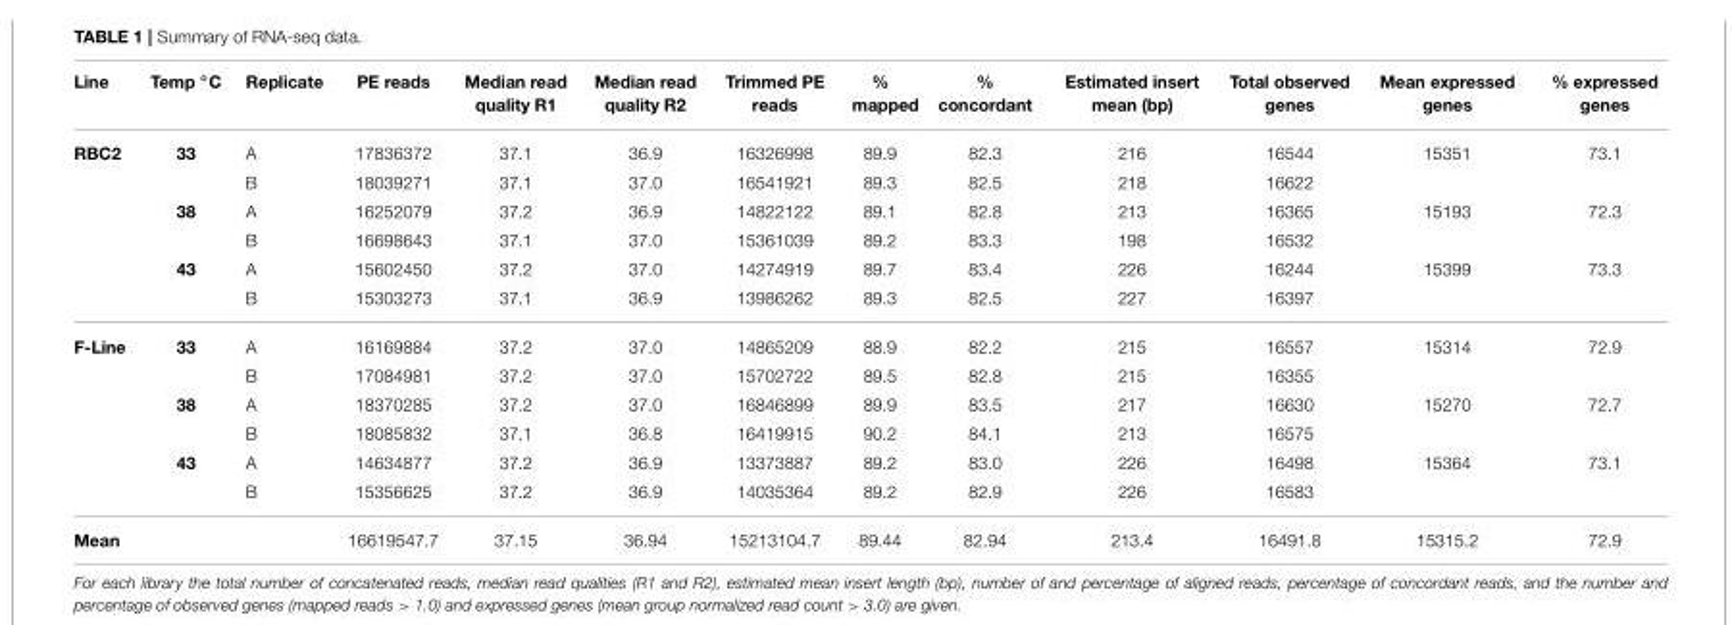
<table><thead><tr><td>Line</td><td>Temp ◦C</td><td>Replicate</td><td>PE reads</td><td>Median read quality R1</td><td>Median read quality R2</td><td>Trimmed PE reads</td><td>% mapped</td><td>% concordant</td><td>Estimated insert mean (bp)</td><td>Total observed genes</td><td>Mean expressed genes</td><td>% expressed genes</td></tr></thead><tbody><tr><td rowspan="6">RBC2</td><td>33</td><td>A</td><td>17836372</td><td>37.1</td><td>36.9</td><td>16326998</td><td>89.9</td><td>82.3</td><td>216</td><td>16544</td><td>15351</td><td>73.1</td></tr><tr><td></td><td>B</td><td>18039271</td><td>37.1</td><td>37.0</td><td>16541921</td><td>89.3</td><td>82.5</td><td>218</td><td>16622</td><td></td><td></td></tr><tr><td>38</td><td>A</td><td>16252079</td><td>37.2</td><td>36.9</td><td>14822122</td><td>89.1</td><td>82.8</td><td>213</td><td>16365</td><td>15193</td><td>72.3</td></tr><tr><td></td><td>B</td><td>16698643</td><td>37.1</td><td>37.0</td><td>15361039</td><td>89.2</td><td>83.3</td><td>198</td><td>16532</td><td></td><td></td></tr><tr><td>43</td><td>A</td><td>15602450</td><td>37.2</td><td>37.0</td><td>14274919</td><td>89.7</td><td>83.4</td><td>226</td><td>16244</td><td>15399</td><td>73.3</td></tr><tr><td></td><td>B</td><td>15303273</td><td>37.1</td><td>36.9</td><td>13986262</td><td>89.3</td><td>82.5</td><td>227</td><td>16397</td><td></td><td></td></tr><tr><td rowspan="6">F-Line</td><td>33</td><td>A</td><td>16169884</td><td>37.2</td><td>37.0</td><td>14865209</td><td>88.9</td><td>82.2</td><td>215</td><td>16557</td><td>15314</td><td>72.9</td></tr><tr><td></td><td>B</td><td>17084981</td><td>37.2</td><td>37.0</td><td>15702722</td><td>89.5</td><td>82.8</td><td>215</td><td>16355</td><td></td><td></td></tr><tr><td>38</td><td>A</td><td>18370285</td><td>37.2</td><td>37.0</td><td>16846899</td><td>89.9</td><td>83.5</td><td>217</td><td>16630</td><td>15270</td><td>72.7</td></tr><tr><td></td><td>B</td><td>18085832</td><td>37.1</td><td>36.8</td><td>16419915</td><td>90.2</td><td>84.1</td><td>213</td><td>16575</td><td></td><td></td></tr><tr><td>43</td><td>A</td><td>14634877</td><td>37.2</td><td>36.9</td><td>13373887</td><td>89.2</td><td>83.0</td><td>226</td><td>16498</td><td>15364</td><td>73.1</td></tr><tr><td></td><td>B</td><td>15356625</td><td>37.2</td><td>36.9</td><td>14035364</td><td>89.2</td><td>82.9</td><td>226</td><td>16583</td><td></td><td></td></tr><tr><td>Mean</td><td></td><td></td><td>16619547.7</td><td>37.15</td><td>36.94</td><td>15213104.7</td><td>89.44</td><td>82.94</td><td>213.4</td><td>16491.8</td><td>15315.2</td><td>72.9</td></tr></tbody></table>